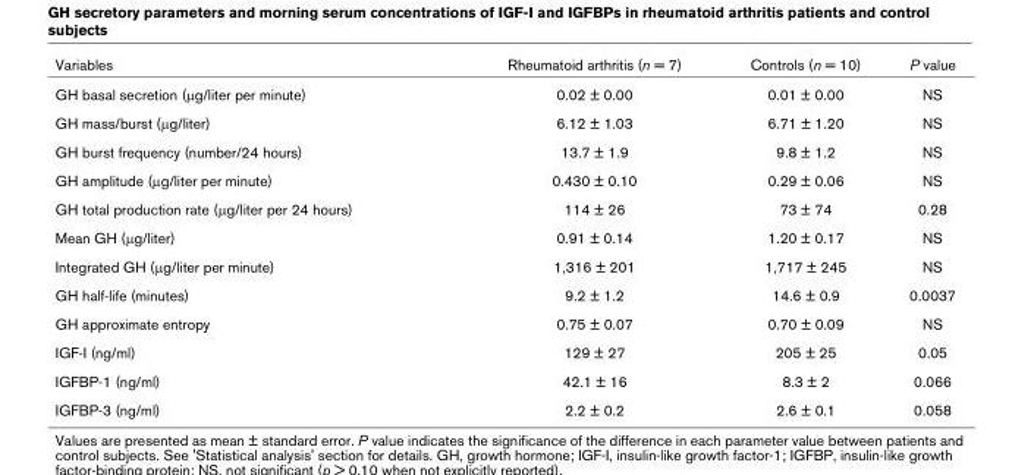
<table><thead><tr><td>Variables</td><td>Rheumatoid arthritis (n = 7)</td><td>Controls (n = 10)</td><td>P value</td></tr></thead><tbody><tr><td>GH basal secretion (µg/liter per minute)</td><td>0.02 ± 0.00</td><td>0.01 ± 0.00</td><td>NS</td></tr><tr><td>GH mass/burst (µg/liter)</td><td>6.12 ± 1.03</td><td>6.71 ± 1.20</td><td>NS</td></tr><tr><td>GH burst frequency (number/24 hours)</td><td>13.7 ± 1.9</td><td>9.8 ± 1.2</td><td>NS</td></tr><tr><td>GH amplitude (µg/liter per minute)</td><td>0.430 ± 0.10</td><td>0.29 ± 0.06</td><td>NS</td></tr><tr><td>GH total production rate (µg/liter per 24 hours)</td><td>114 ± 26</td><td>73 ± 74</td><td>0.28</td></tr><tr><td>Mean GH (µg/liter)</td><td>0.91 ± 0.14</td><td>1.20 ± 0.17</td><td>NS</td></tr><tr><td>Integrated GH (µg/liter per minute)</td><td>1,316 ± 201</td><td>1,717 ± 245</td><td>NS</td></tr><tr><td>GH half-life (minutes)</td><td>9.2 ± 1.2</td><td>14.6 ± 0.9</td><td>0.0037</td></tr><tr><td>GH approximate entropy</td><td>0.75 ± 0.07</td><td>0.70 ± 0.09</td><td>NS</td></tr><tr><td>IGF-I (ng/ml)</td><td>129 ± 27</td><td>205 ± 25</td><td>0.05</td></tr><tr><td>IGFBP-1 (ng/ml)</td><td>42.1 ± 16</td><td>8.3 ± 2</td><td>0.066</td></tr><tr><td>IGFBP-3 (ng/ml)</td><td>2.2 ± 0.2</td><td>2.6 ± 0.1</td><td>0.058</td></tr></tbody></table>